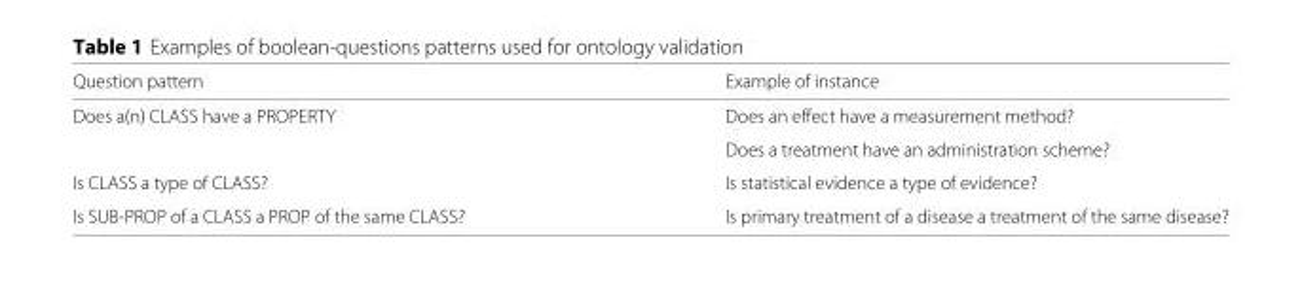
<table><thead><tr><td>Question pattern</td><td>Example of instance</td></tr></thead><tbody><tr><td rowspan="2">Does a(n) CLASS have a PROPERTY</td><td>Does an effect have a measurement method?</td></tr><tr><td>Does a treatment have an administration scheme?</td></tr><tr><td>Is CLASS a type of CLASS?</td><td>Is statistical evidence a type of evidence?</td></tr><tr><td>Is SUB-PROP of a CLASS a PROP of the same CLASS?</td><td>Is primary treatment of a disease a treatment of the same disease?</td></tr></tbody></table>